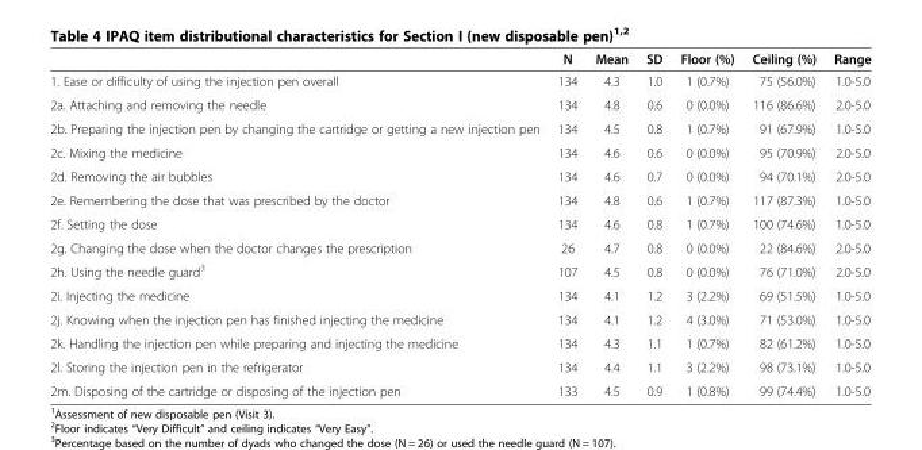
<table><thead><tr><td></td><td>N</td><td>Mean</td><td>SD</td><td>Floor (%)</td><td>Ceiling (%)</td><td>Range</td></tr></thead><tbody><tr><td>1. Ease or difficulty of using the injection pen overall</td><td>134</td><td>4.3</td><td>1.0</td><td>1 (0.7%)</td><td>75 (56.0%)</td><td>1.0-5.0</td></tr><tr><td>2a. Attaching and removing the needle</td><td>134</td><td>4.8</td><td>0.6</td><td>0 (0.0%)</td><td>116 (86.6%)</td><td>2.0-5.0</td></tr><tr><td>2b. Preparing the injection pen by changing the cartridge or getting a new injection pen</td><td>134</td><td>4.5</td><td>0.8</td><td>1 (0.7%)</td><td>91 (67.9%)</td><td>1.0-5.0</td></tr><tr><td>2c. Mixing the medicine</td><td>134</td><td>4.6</td><td>0.6</td><td>0 (0.0%)</td><td>95 (70.9%)</td><td>2.0-5.0</td></tr><tr><td>2d. Removing the air bubbles</td><td>134</td><td>4.6</td><td>0.7</td><td>0 (0.0%)</td><td>94 (70.1%)</td><td>2.0-5.0</td></tr><tr><td>2e. Remembering the dose that was prescribed by the doctor</td><td>134</td><td>4.8</td><td>0.6</td><td>1 (0.7%)</td><td>117 (87.3%)</td><td>1.0-5.0</td></tr><tr><td>2f. Setting the dose</td><td>134</td><td>4.6</td><td>0.8</td><td>1 (0.7%)</td><td>100 (74.6%)</td><td>1.0-5.0</td></tr><tr><td>2g. Changing the dose when the doctor changes the prescription</td><td>26</td><td>4.7</td><td>0.8</td><td>0 (0.0%)</td><td>22 (84.6%)</td><td>2.0-5.0</td></tr><tr><td>2h. Using the needle guard<sup>3</sup></td><td>107</td><td>4.5</td><td>0.8</td><td>0 (0.0%)</td><td>76 (71.0%)</td><td>2.0-5.0</td></tr><tr><td>2i. Injecting the medicine</td><td>134</td><td>4.1</td><td>1.2</td><td>3 (2.2%)</td><td>69 (51.5%)</td><td>1.0-5.0</td></tr><tr><td>2j. Knowing when the injection pen has finished injecting the medicine</td><td>134</td><td>4.1</td><td>1.2</td><td>4 (3.0%)</td><td>71 (53.0%)</td><td>1.0-5.0</td></tr><tr><td>2k. Handling the injection pen while preparing and injecting the medicine</td><td>134</td><td>4.3</td><td>1.1</td><td>1 (0.7%)</td><td>82 (61.2%)</td><td>1.0-5.0</td></tr><tr><td>2l. Storing the injection pen in the refrigerator</td><td>134</td><td>4.4</td><td>1.1</td><td>3 (2.2%)</td><td>98 (73.1%)</td><td>1.0-5.0</td></tr><tr><td>2m. Disposing of the cartridge or disposing of the injection pen</td><td>133</td><td>4.5</td><td>0.9</td><td>1 (0.8%)</td><td>99 (74.4%)</td><td>1.0-5.0</td></tr></tbody></table>